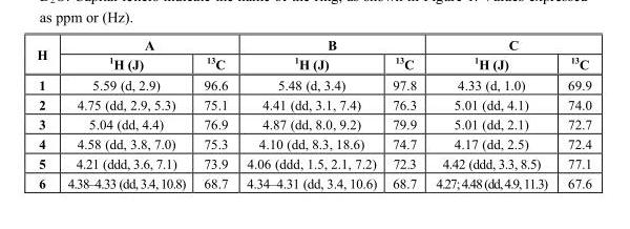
<table><thead><tr><td rowspan="2">H</td><td colspan="2">A</td><td colspan="2">B</td><td colspan="2">C</td></tr><tr><td><sup>1</sup>H (J)</td><td><sup>13</sup>C</td><td><sup>1</sup>H (J)</td><td><sup>13</sup>C</td><td><sup>1</sup>H (J)</td><td><sup>13</sup>C</td></tr></thead><tbody><tr><td>1</td><td>5.59 (d, 2.9)</td><td>96.6</td><td>5.48 (d, 3.4)</td><td>97.8</td><td>4.33 (d, 1.0)</td><td>69.9</td></tr><tr><td>2</td><td>4.75 (dd, 2.9, 5.3)</td><td>75.1</td><td>4.41 (dd, 3.1, 7.4)</td><td>76.3</td><td>5.01 (dd, 4.1)</td><td>74.0</td></tr><tr><td>3</td><td>5.04 (dd, 4.4)</td><td>76.9</td><td>4.87 (dd, 8.0, 9.2)</td><td>79.9</td><td>5.01 (dd, 2.1)</td><td>72.7</td></tr><tr><td>4</td><td>4.58 (dd, 3.8, 7.0)</td><td>75.3</td><td>4.10 (dd, 8.3, 18.6)</td><td>74.7</td><td>4.17 (dd, 2.5)</td><td>72.4</td></tr><tr><td>5</td><td>4.21 (ddd, 3.6, 7.1)</td><td>73.9</td><td>4.06 (ddd, 1.5, 2.1, 7.2)</td><td>72.3</td><td>4.42 (ddd, 3.3, 8.5)</td><td>77.1</td></tr><tr><td>6</td><td>4.38–4.33 (dd, 3.4, 10.8)</td><td>68.7</td><td>4.34–4.31 (dd, 3.4, 10.6)</td><td>68.7</td><td>4.27; 4.48 (dd, 4.9, 11.3)</td><td>67.6</td></tr></tbody></table>